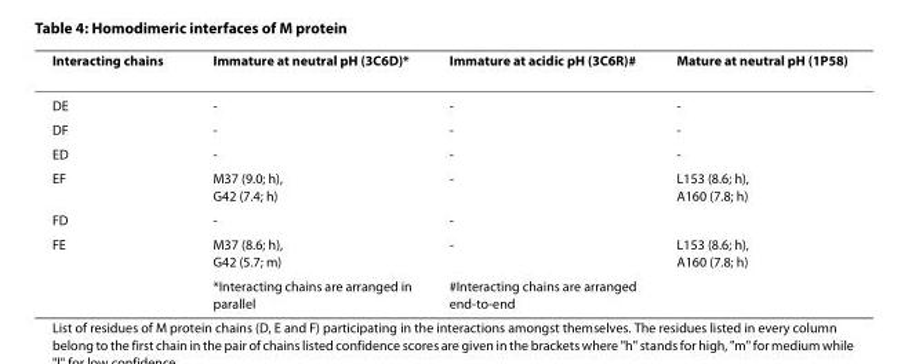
<table><thead><tr><td>Interacting chains</td><td>Immature at neutral pH (3C6D)*</td><td>Immature at acidic pH (3C6R)#</td><td>Mature at neutral pH (1P58)</td></tr></thead><tbody><tr><td>DE</td><td>-</td><td>-</td><td>-</td></tr><tr><td>DF</td><td>-</td><td>-</td><td>-</td></tr><tr><td>ED</td><td>-</td><td>-</td><td>-</td></tr><tr><td>EF</td><td>M37 (9.0; h), G42 (7.4; h)</td><td>-</td><td>L153 (8.6; h), A160 (7.8; h)</td></tr><tr><td>FD</td><td>-</td><td>-</td><td></td></tr><tr><td rowspan="2">FE</td><td>M37 (8.6; h), G42 (5.7; m)</td><td>-</td><td>L153 (8.6; h), A160 (7.8; h)</td></tr><tr><td>*Interacting chains are arranged in parallel</td><td>#Interacting chains are arranged end-to-end</td><td></td></tr></tbody></table>